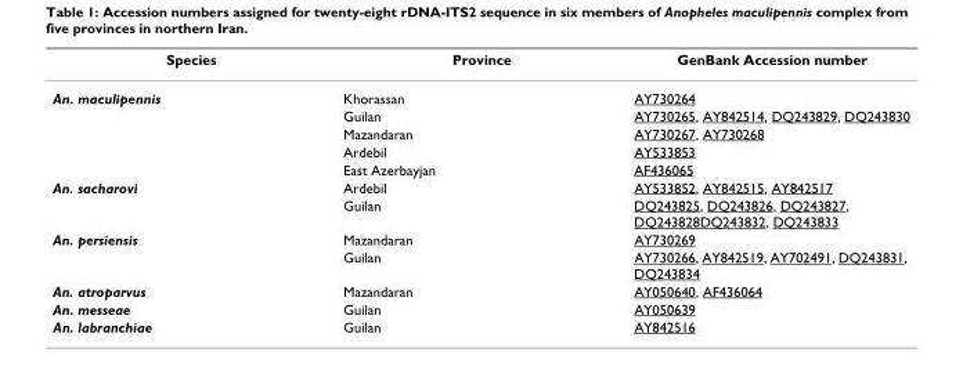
<table><thead><tr><td>Species</td><td>Province</td><td>GenBank Accession number</td></tr></thead><tbody><tr><td rowspan="5">An. maculipennis</td><td>Khorassan</td><td>AY730264</td></tr><tr><td>Guilan</td><td>AY730265, AY842514, DQ243829, DQ243830</td></tr><tr><td>Mazandaran</td><td>AY730267, AY730268</td></tr><tr><td>Ardebil</td><td>AY533853</td></tr><tr><td>East Azerbayjan</td><td>AF436065</td></tr><tr><td rowspan="2">An. sacharovi</td><td>Ardebil</td><td>AY533852, AY842515, AY842517</td></tr><tr><td>Guilan</td><td>DQ243825, DQ243826, DQ243827, DQ243828DQ243832, DQ243833</td></tr><tr><td rowspan="2">An. persiensis</td><td>Mazandaran</td><td>AY730269</td></tr><tr><td>Guilan</td><td>AY730266, AY842519, AY702491, DQ243831, DQ243834</td></tr><tr><td>An. atroparvus</td><td>Mazandaran</td><td>AY050640, AF436064</td></tr><tr><td>An. messeae</td><td>Guilan</td><td>AY050639</td></tr><tr><td>An. labranchiae</td><td>Guilan</td><td>AY842516</td></tr></tbody></table>